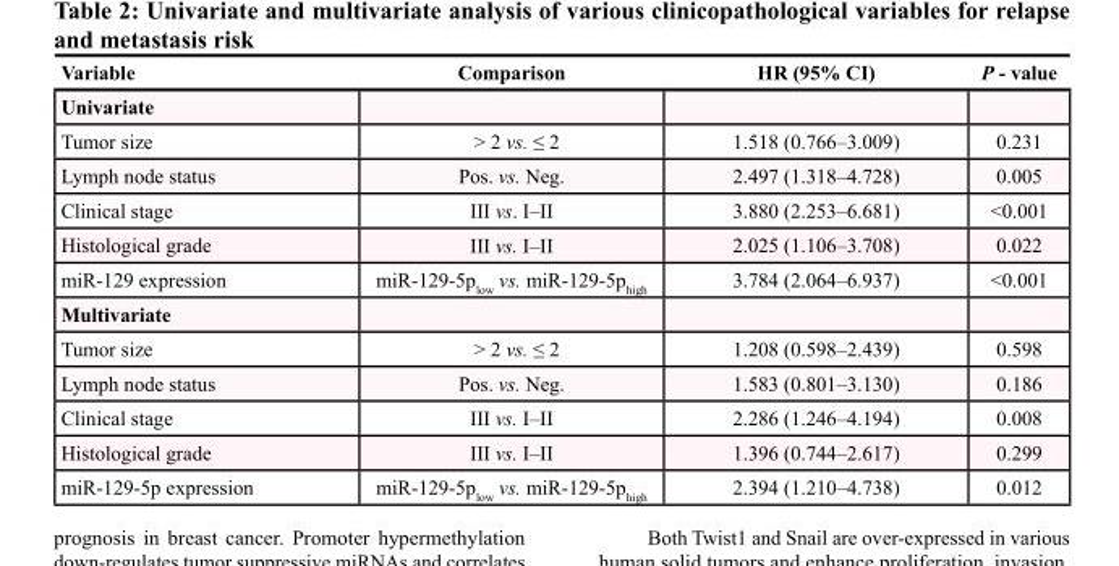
<table><thead><tr><td>Variable</td><td>Comparison</td><td>HR (95% CI)</td><td>P - value</td></tr></thead><tbody><tr><td colspan="4">Univariate</td></tr><tr><td>Tumor size</td><td>&gt; 2 vs. ≤ 2</td><td>1.518 (0.766–3.009)</td><td>0.231</td></tr><tr><td>Lymph node status</td><td>Pos. vs. Neg.</td><td>2.497 (1.318–4.728)</td><td>0.005</td></tr><tr><td>Clinical stage</td><td>III vs. I–II</td><td>3.880 (2.253–6.681)</td><td>&lt;0.001</td></tr><tr><td>Histological grade</td><td>III vs. I–II</td><td>2.025 (1.106–3.708)</td><td>0.022</td></tr><tr><td>miR-129 expression</td><td>miR-129-5p<sub>low</sub> vs. miR-129-5p<sub>high</sub></td><td>3.784 (2.064–6.937)</td><td>&lt;0.001</td></tr><tr><td colspan="4">Multivariate</td></tr><tr><td>Tumor size</td><td>&gt; 2 vs. ≤ 2</td><td>1.208 (0.598–2.439)</td><td>0.598</td></tr><tr><td>Lymph node status</td><td>Pos. vs. Neg.</td><td>1.583 (0.801–3.130)</td><td>0.186</td></tr><tr><td>Clinical stage</td><td>III vs. I–II</td><td>2.286 (1.246–4.194)</td><td>0.008</td></tr><tr><td>Histological grade</td><td>III vs. I–II</td><td>1.396 (0.744–2.617)</td><td>0.299</td></tr><tr><td>miR-129-5p expression</td><td>miR-129-5p<sub>low</sub> vs. miR-129-5p<sub>high</sub></td><td>2.394 (1.210–4.738)</td><td>0.012</td></tr></tbody></table>